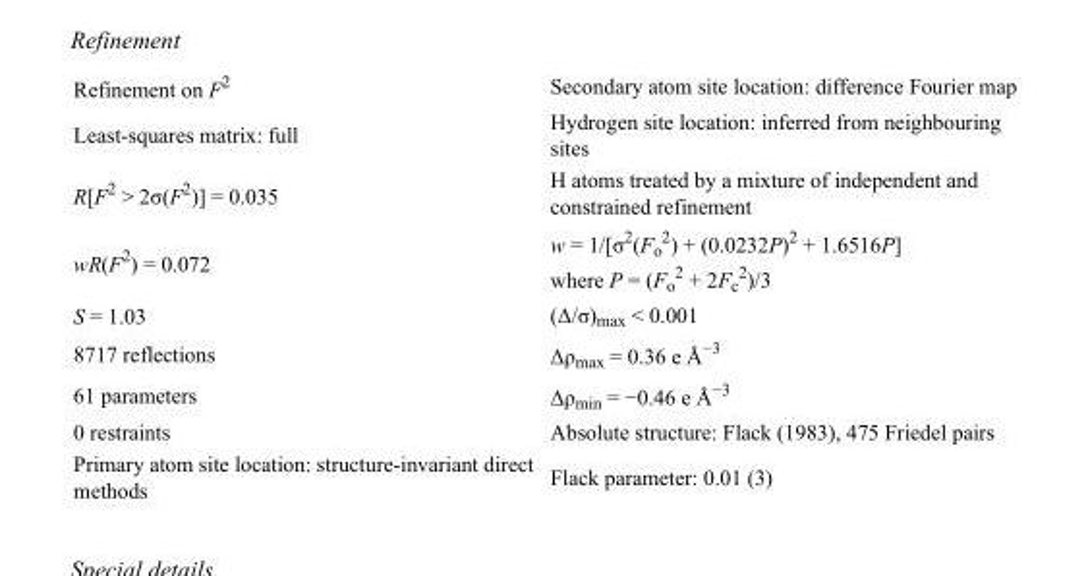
<table><tbody><tr><td>Refinement on F<sup>2</sup></td><td>Secondary atom site location: difference Fourier map</td></tr><tr><td>Least-squares matrix: full</td><td>Hydrogen site location: inferred from neighbouring sites</td></tr><tr><td>R[F<sup>2</sup> &gt; 2σ(F<sup>2</sup>)] = 0.035</td><td>H atoms treated by a mixture of independent and constrained refinement</td></tr><tr><td>wR(F<sup>2</sup>) = 0.072</td><td>w = 1/[σ<sup>2</sup>(F<sub>o</sub> <sup>2</sup>) + (0.0232P)<sup>2</sup> + 1.6516P] where P = (F<sub>o</sub> <sup>2</sup> + 2F<sub>c</sub> <sup>2</sup>)/3</td></tr><tr><td>S = 1.03</td><td>(Δ/σ)<sub>max</sub> &lt; 0.001</td></tr><tr><td>8717 reflections</td><td>Δρ<sub>max</sub> = 0.36 e Å<sup>−3</sup></td></tr><tr><td>61 parameters</td><td>Δρ<sub>min</sub> = −0.46 e Å<sup>−3</sup></td></tr><tr><td>0 restraints</td><td>Absolute structure: Flack (1983), 475 Friedel pairs</td></tr><tr><td>Primary atom site location: structure-invariant direct methods</td><td>Flack parameter: 0.01 (3)</td></tr></tbody></table>